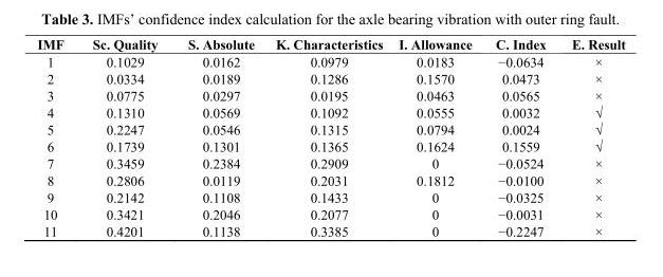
<table><thead><tr><td>IMF</td><td>Sc. Quality</td><td>S. Absolute</td><td>K. Characteristics</td><td>I. Allowance</td><td>C. Index</td><td>E. Result</td></tr></thead><tbody><tr><td>1</td><td>0.1029</td><td>0.0162</td><td>0.0979</td><td>0.0183</td><td>−0.0634</td><td>×</td></tr><tr><td>2</td><td>0.0334</td><td>0.0189</td><td>0.1286</td><td>0.1570</td><td>0.0473</td><td>×</td></tr><tr><td>3</td><td>0.0775</td><td>0.0297</td><td>0.0195</td><td>0.0463</td><td>0.0565</td><td>×</td></tr><tr><td>4</td><td>0.1310</td><td>0.0569</td><td>0.1092</td><td>0.0555</td><td>0.0032</td><td>√</td></tr><tr><td>5</td><td>0.2247</td><td>0.0546</td><td>0.1315</td><td>0.0794</td><td>0.0024</td><td>√</td></tr><tr><td>6</td><td>0.1739</td><td>0.1301</td><td>0.1365</td><td>0.1624</td><td>0.1559</td><td>√</td></tr><tr><td>7</td><td>0.3459</td><td>0.2384</td><td>0.2909</td><td>0</td><td>−0.0524</td><td>×</td></tr><tr><td>8</td><td>0.2806</td><td>0.0119</td><td>0.2031</td><td>0.1812</td><td>−0.0100</td><td>×</td></tr><tr><td>9</td><td>0.2142</td><td>0.1108</td><td>0.1433</td><td>0</td><td>−0.0325</td><td>×</td></tr><tr><td>10</td><td>0.3421</td><td>0.2046</td><td>0.2077</td><td>0</td><td>−0.0031</td><td>×</td></tr><tr><td>11</td><td>0.4201</td><td>0.1138</td><td>0.3385</td><td>0</td><td>−0.2247</td><td>×</td></tr></tbody></table>